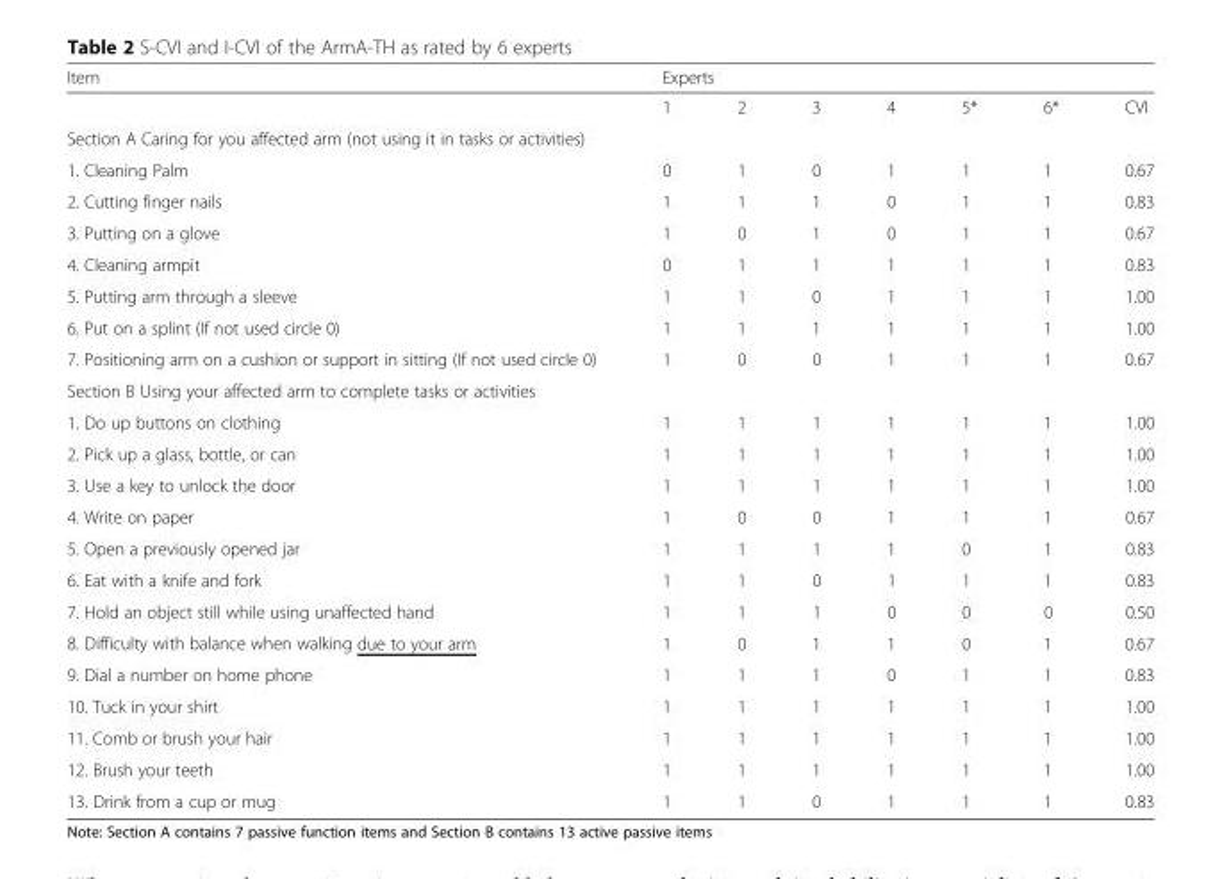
<table><thead><tr><td rowspan="2">Item</td><td colspan="6">Experts</td><td rowspan="2">CVI</td></tr><tr><td>1</td><td>2</td><td>3</td><td>4</td><td>5*</td><td>6*</td></tr></thead><tbody><tr><td colspan="8">Section A Caring for you affected arm (not using it in tasks or activities)</td></tr><tr><td>1. Cleaning Palm</td><td>0</td><td>1</td><td>0</td><td>1</td><td>1</td><td>1</td><td>0.67</td></tr><tr><td>2. Cutting finger nails</td><td>1</td><td>1</td><td>1</td><td>0</td><td>1</td><td>1</td><td>0.83</td></tr><tr><td>3. Putting on a glove</td><td>1</td><td>0</td><td>1</td><td>0</td><td>1</td><td>1</td><td>0.67</td></tr><tr><td>4. Cleaning armpit</td><td>0</td><td>1</td><td>1</td><td>1</td><td>1</td><td>1</td><td>0.83</td></tr><tr><td>5. Putting arm through a sleeve</td><td>1</td><td>1</td><td>0</td><td>1</td><td>1</td><td>1</td><td>1.00</td></tr><tr><td>6. Put on a splint (If not used circle 0)</td><td>1</td><td>1</td><td>1</td><td>1</td><td>1</td><td>1</td><td>1.00</td></tr><tr><td>7. Positioning arm on a cushion or support in sitting (If not used circle 0)</td><td>1</td><td>0</td><td>0</td><td>1</td><td>1</td><td>1</td><td>0.67</td></tr><tr><td colspan="8">Section B Using your affected arm to complete tasks or activities</td></tr><tr><td>1. Do up buttons on clothing</td><td>1</td><td>1</td><td>1</td><td>1</td><td>1</td><td>1</td><td>1.00</td></tr><tr><td>2. Pick up a glass, bottle, or can</td><td>1</td><td>1</td><td>1</td><td>1</td><td>1</td><td>1</td><td>1.00</td></tr><tr><td>3. Use a key to unlock the door</td><td>1</td><td>1</td><td>1</td><td>1</td><td>1</td><td>1</td><td>1.00</td></tr><tr><td>4. Write on paper</td><td>1</td><td>0</td><td>0</td><td>1</td><td>1</td><td>1</td><td>0.67</td></tr><tr><td>5. Open a previously opened jar</td><td>1</td><td>1</td><td>1</td><td>1</td><td>0</td><td>1</td><td>0.83</td></tr><tr><td>6. Eat with a knife and fork</td><td>1</td><td>1</td><td>0</td><td>1</td><td>1</td><td>1</td><td>0.83</td></tr><tr><td>7. Hold an object still while using unaffected hand</td><td>1</td><td>1</td><td>1</td><td>0</td><td>0</td><td>0</td><td>0.50</td></tr><tr><td>8. Difficulty with balance when walking due to your arm</td><td>1</td><td>0</td><td>1</td><td>1</td><td>0</td><td>1</td><td>0.67</td></tr><tr><td>9. Dial a number on home phone</td><td>1</td><td>1</td><td>1</td><td>0</td><td>1</td><td>1</td><td>0.83</td></tr><tr><td>10. Tuck in your shirt</td><td>1</td><td>1</td><td>1</td><td>1</td><td>1</td><td>1</td><td>1.00</td></tr><tr><td>11. Comb or brush your hair</td><td>1</td><td>1</td><td>1</td><td>1</td><td>1</td><td>1</td><td>1.00</td></tr><tr><td>12. Brush your teeth</td><td>1</td><td>1</td><td>1</td><td>1</td><td>1</td><td>1</td><td>1.00</td></tr><tr><td>13. Drink from a cup or mug</td><td>1</td><td>1</td><td>0</td><td>1</td><td>1</td><td>1</td><td>0.83</td></tr></tbody></table>